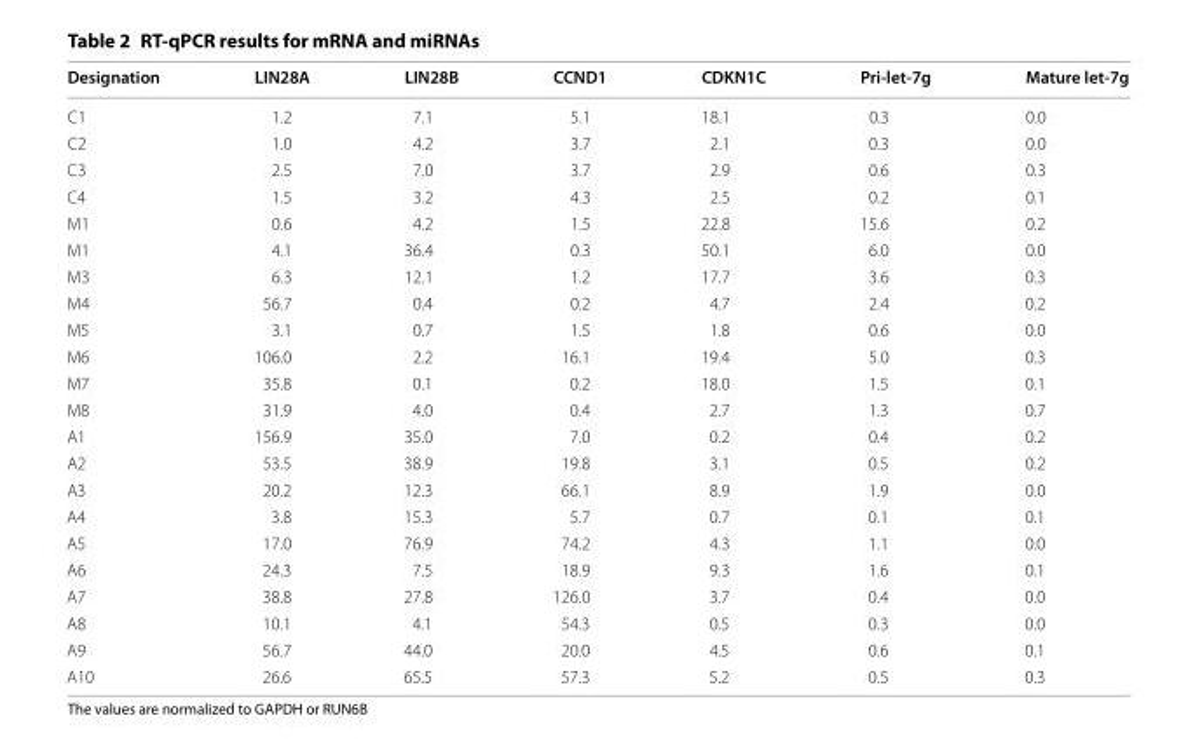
<table><thead><tr><td>Designation</td><td>LIN28A</td><td>LIN28B</td><td>CCND1</td><td>CDKN1C</td><td>Pri‑let‑7g</td><td>Mature let‑7g</td></tr></thead><tbody><tr><td>C1</td><td>1.2</td><td>7.1</td><td>5.1</td><td>18.1</td><td>0.3</td><td>0.0</td></tr><tr><td>C2</td><td>1.0</td><td>4.2</td><td>3.7</td><td>2.1</td><td>0.3</td><td>0.0</td></tr><tr><td>C3</td><td>2.5</td><td>7.0</td><td>3.7</td><td>2.9</td><td>0.6</td><td>0.3</td></tr><tr><td>C4</td><td>1.5</td><td>3.2</td><td>4.3</td><td>2.5</td><td>0.2</td><td>0.1</td></tr><tr><td>M1</td><td>0.6</td><td>4.2</td><td>1.5</td><td>22.8</td><td>15.6</td><td>0.2</td></tr><tr><td>M1</td><td>4.1</td><td>36.4</td><td>0.3</td><td>50.1</td><td>6.0</td><td>0.0</td></tr><tr><td>M3</td><td>6.3</td><td>12.1</td><td>1.2</td><td>17.7</td><td>3.6</td><td>0.3</td></tr><tr><td>M4</td><td>56.7</td><td>0.4</td><td>0.2</td><td>4.7</td><td>2.4</td><td>0.2</td></tr><tr><td>M5</td><td>3.1</td><td>0.7</td><td>1.5</td><td>1.8</td><td>0.6</td><td>0.0</td></tr><tr><td>M6</td><td>106.0</td><td>2.2</td><td>16.1</td><td>19.4</td><td>5.0</td><td>0.3</td></tr><tr><td>M7</td><td>35.8</td><td>0.1</td><td>0.2</td><td>18.0</td><td>1.5</td><td>0.1</td></tr><tr><td>M8</td><td>31.9</td><td>4.0</td><td>0.4</td><td>2.7</td><td>1.3</td><td>0.7</td></tr><tr><td>A1</td><td>156.9</td><td>35.0</td><td>7.0</td><td>0.2</td><td>0.4</td><td>0.2</td></tr><tr><td>A2</td><td>53.5</td><td>38.9</td><td>19.8</td><td>3.1</td><td>0.5</td><td>0.2</td></tr><tr><td>A3</td><td>20.2</td><td>12.3</td><td>66.1</td><td>8.9</td><td>1.9</td><td>0.0</td></tr><tr><td>A4</td><td>3.8</td><td>15.3</td><td>5.7</td><td>0.7</td><td>0.1</td><td>0.1</td></tr><tr><td>A5</td><td>17.0</td><td>76.9</td><td>74.2</td><td>4.3</td><td>1.1</td><td>0.0</td></tr><tr><td>A6</td><td>24.3</td><td>7.5</td><td>18.9</td><td>9.3</td><td>1.6</td><td>0.1</td></tr><tr><td>A7</td><td>38.8</td><td>27.8</td><td>126.0</td><td>3.7</td><td>0.4</td><td>0.0</td></tr><tr><td>A8</td><td>10.1</td><td>4.1</td><td>54.3</td><td>0.5</td><td>0.3</td><td>0.0</td></tr><tr><td>A9</td><td>56.7</td><td>44.0</td><td>20.0</td><td>4.5</td><td>0.6</td><td>0.1</td></tr><tr><td>A10</td><td>26.6</td><td>65.5</td><td>57.3</td><td>5.2</td><td>0.5</td><td>0.3</td></tr></tbody></table>